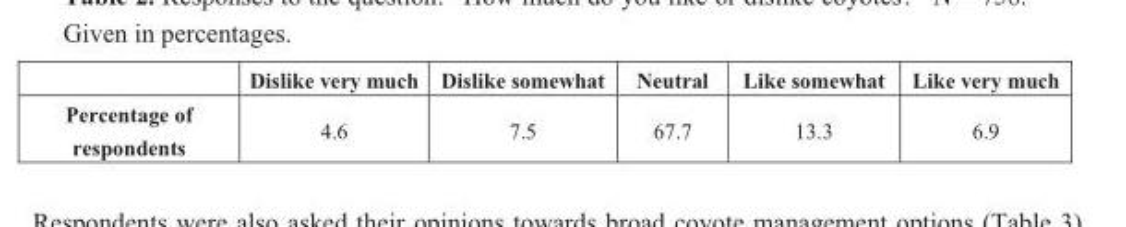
<table><thead><tr><td></td><td>Dislike very much</td><td>Dislike somewhat</td><td>Neutral</td><td>Like somewhat</td><td>Like very much</td></tr></thead><tbody><tr><td>Percentage of respondents</td><td>4.6</td><td>7.5</td><td>67.7</td><td>13.3</td><td>6.9</td></tr></tbody></table>